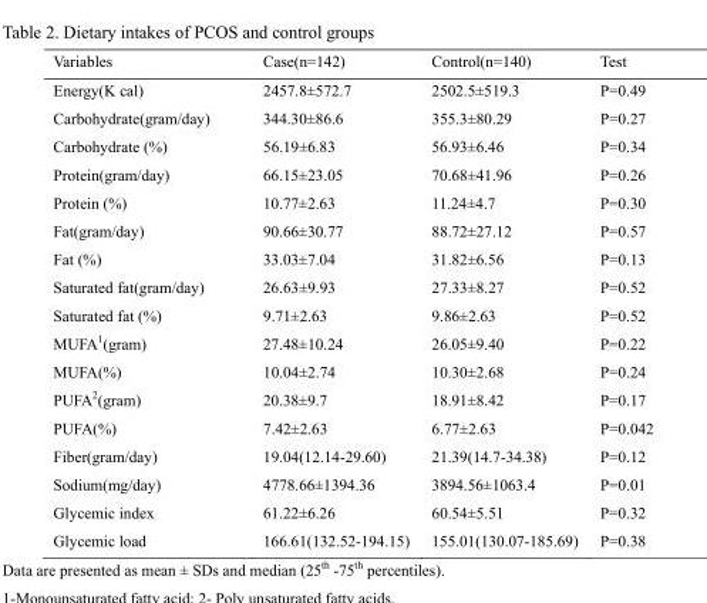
<table><thead><tr><td>Variables</td><td>Case(n=142)</td><td>Control(n=140)</td><td>Test</td></tr></thead><tbody><tr><td>Energy(K cal)</td><td>2457.8±572.7</td><td>2502.5±519.3</td><td>P=0.49</td></tr><tr><td>Carbohydrate(gram/day)</td><td>344.30±86.6</td><td>355.3±80.29</td><td>P=0.27</td></tr><tr><td>Carbohydrate (%)</td><td>56.19±6.83</td><td>56.93±6.46</td><td>P=0.34</td></tr><tr><td>Protein(gram/day)</td><td>66.15±23.05</td><td>70.68±41.96</td><td>P=0.26</td></tr><tr><td>Protein (%)</td><td>10.77±2.63</td><td>11.24±4.7</td><td>P=0.30</td></tr><tr><td>Fat(gram/day)</td><td>90.66±30.77</td><td>88.72±27.12</td><td>P=0.57</td></tr><tr><td>Fat (%)</td><td>33.03±7.04</td><td>31.82±6.56</td><td>P=0.13</td></tr><tr><td>Saturated fat(gram/day)</td><td>26.63±9.93</td><td>27.33±8.27</td><td>P=0.52</td></tr><tr><td>Saturated fat (%)</td><td>9.71±2.63</td><td>9.86±2.63</td><td>P=0.52</td></tr><tr><td>MUFA<sup>1</sup>(gram)</td><td>27.48±10.24</td><td>26.05±9.40</td><td>P=0.22</td></tr><tr><td>MUFA(%)</td><td>10.04±2.74</td><td>10.30±2.68</td><td>P=0.24</td></tr><tr><td>PUFA<sup>2</sup>(gram)</td><td>20.38±9.7</td><td>18.91±8.42</td><td>P=0.17</td></tr><tr><td>PUFA(%)</td><td>7.42±2.63</td><td>6.77±2.63</td><td>P=0.042</td></tr><tr><td>Fiber(gram/day)</td><td>19.04(12.14-29.60)</td><td>21.39(14.7-34.38)</td><td>P=0.12</td></tr><tr><td>Sodium(mg/day)</td><td>4778.66±1394.36</td><td>3894.56±1063.4</td><td>P=0.01</td></tr><tr><td>Glycemic index</td><td>61.22±6.26</td><td>60.54±5.51</td><td>P=0.32</td></tr><tr><td>Glycemic load</td><td>166.61(132.52-194.15)</td><td>155.01(130.07-185.69)</td><td>P=0.38</td></tr></tbody></table>